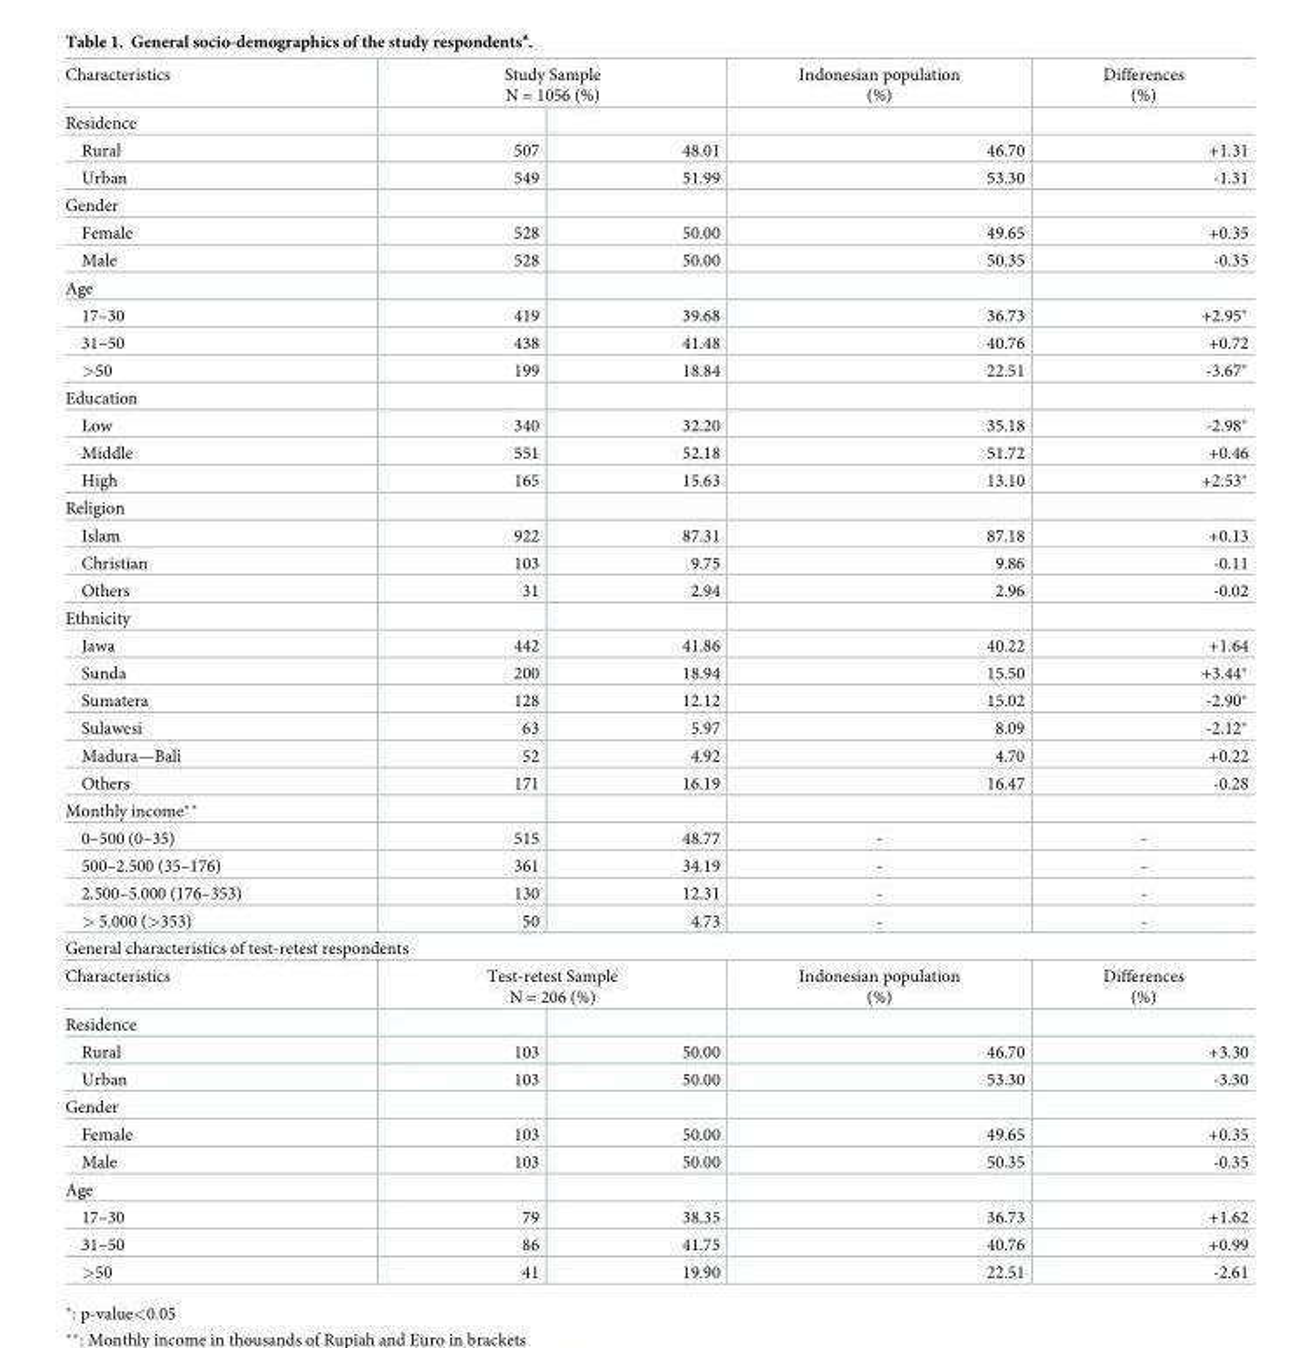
<table><tbody><tr><td>Characteristics</td><td colspan="2">Study Sample N = 1056 (%)</td><td>Indonesian population (%)</td><td>Differences (%)</td></tr><tr><td colspan="5">Residence</td></tr><tr><td>Rural</td><td>507</td><td>48.01</td><td>46.70</td><td>+1.31</td></tr><tr><td>Urban</td><td>549</td><td>51.99</td><td>53.30</td><td>-1.31</td></tr><tr><td colspan="5">Gender</td></tr><tr><td>Female</td><td>528</td><td>50.00</td><td>49.65</td><td>+0.35</td></tr><tr><td>Male</td><td>528</td><td>50.00</td><td>50.35</td><td>-0.35</td></tr><tr><td colspan="5">Age</td></tr><tr><td>17–30</td><td>419</td><td>39.68</td><td>36.73</td><td>+2.95*</td></tr><tr><td>31–50</td><td>438</td><td>41.48</td><td>40.76</td><td>+0.72</td></tr><tr><td>&gt;50</td><td>199</td><td>18.84</td><td>22.51</td><td>-3.67*</td></tr><tr><td colspan="5">Education</td></tr><tr><td>Low</td><td>340</td><td>32.20</td><td>35.18</td><td>-2.98*</td></tr><tr><td>Middle</td><td>551</td><td>52.18</td><td>51.72</td><td>+0.46</td></tr><tr><td>High</td><td>165</td><td>15.63</td><td>13.10</td><td>+2.53*</td></tr><tr><td colspan="5">Religion</td></tr><tr><td>Islam</td><td>922</td><td>87.31</td><td>87.18</td><td>+0.13</td></tr><tr><td>Christian</td><td>103</td><td>9.75</td><td>9.86</td><td>-0.11</td></tr><tr><td>Others</td><td>31</td><td>2.94</td><td>2.96</td><td>-0.02</td></tr><tr><td colspan="5">Ethnicity</td></tr><tr><td>Jawa</td><td>442</td><td>41.86</td><td>40.22</td><td>+1.64</td></tr><tr><td>Sunda</td><td>200</td><td>18.94</td><td>15.50</td><td>+3.44*</td></tr><tr><td>Sumatera</td><td>128</td><td>12.12</td><td>15.02</td><td>-2.90*</td></tr><tr><td>Sulawesi</td><td>63</td><td>5.97</td><td>8.09</td><td>-2.12*</td></tr><tr><td>Madura—Bali</td><td>52</td><td>4.92</td><td>4.70</td><td>+0.22</td></tr><tr><td>Others</td><td>171</td><td>16.19</td><td>16.47</td><td>-0.28</td></tr><tr><td colspan="5">Monthly income**</td></tr><tr><td>0–500 (0–35)</td><td>515</td><td>48.77</td><td>-</td><td>-</td></tr><tr><td>500–2.500 (35–176)</td><td>361</td><td>34.19</td><td>-</td><td>-</td></tr><tr><td>2.500–5.000 (176–353)</td><td>130</td><td>12.31</td><td>-</td><td>-</td></tr><tr><td>&gt; 5.000 (&gt;353)</td><td>50</td><td>4.73</td><td>-</td><td>-</td></tr><tr><td colspan="5">General characteristics of test-retest respondents</td></tr><tr><td>Characteristics</td><td colspan="2">Test-retest Sample N = 206 (%)</td><td>Indonesian population (%)</td><td>Differences (%)</td></tr><tr><td colspan="5">Residence</td></tr><tr><td>Rural</td><td>103</td><td>50.00</td><td>46.70</td><td>+3.30</td></tr><tr><td>Urban</td><td>103</td><td>50.00</td><td>53.30</td><td>-3.30</td></tr><tr><td colspan="5">Gender</td></tr><tr><td>Female</td><td>103</td><td>50.00</td><td>49.65</td><td>+0.35</td></tr><tr><td>Male</td><td>103</td><td>50.00</td><td>50.35</td><td>-0.35</td></tr><tr><td colspan="5">Age</td></tr><tr><td>17–30</td><td>79</td><td>38.35</td><td>36.73</td><td>+1.62</td></tr><tr><td>31–50</td><td>86</td><td>41.75</td><td>40.76</td><td>+0.99</td></tr><tr><td>&gt;50</td><td>41</td><td>19.90</td><td>22.51</td><td>-2.61</td></tr></tbody></table>